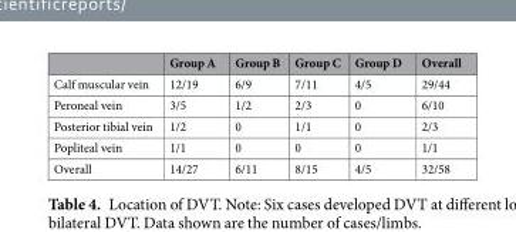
<table><thead><tr><td></td><td>Group A</td><td>Group B</td><td>Group C</td><td>Group D</td><td>Overall</td></tr></thead><tbody><tr><td>Calf muscular vein</td><td>12/19</td><td>6/9</td><td>7/11</td><td>4/5</td><td>29/44</td></tr><tr><td>Peroneal vein</td><td>3/5</td><td>1/2</td><td>2/3</td><td>0</td><td>6/10</td></tr><tr><td>Posterior tibial vein</td><td>1/2</td><td>0</td><td>1/1</td><td>0</td><td>2/3</td></tr><tr><td>Popliteal vein</td><td>1/1</td><td>0</td><td>0</td><td>0</td><td>1/1</td></tr><tr><td>Overall</td><td>14/27</td><td>6/11</td><td>8/15</td><td>4/5</td><td>32/58</td></tr></tbody></table>